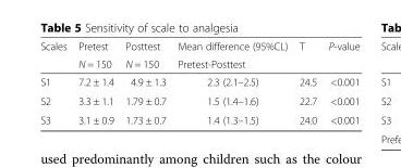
<table><thead><tr><td rowspan="2">Scales</td><td rowspan="2">Pretest N = 150</td><td rowspan="2">Posttest N = 150</td><td>Mean difference (95%CL)</td><td>T</td><td rowspan="2">P-value</td></tr><tr><td colspan="2">Pretest-Posttest</td></tr></thead><tbody><tr><td>S1</td><td>7.2 ± 1.4</td><td>4.9 ± 1.3</td><td>2.3 (2.1–2.5)</td><td>24.5</td><td>&lt;0.001</td></tr><tr><td>S2</td><td>3.3 ± 1.1</td><td>1.79 ± 0.7</td><td>1.5 (1.4–1.6)</td><td>22.7</td><td>&lt;0.001</td></tr><tr><td>S3</td><td>3.1 ± 0.9</td><td>1.73 ± 0.7</td><td>1.4 (1.3–1.5)</td><td>24.0</td><td>&lt;0.001</td></tr></tbody></table>